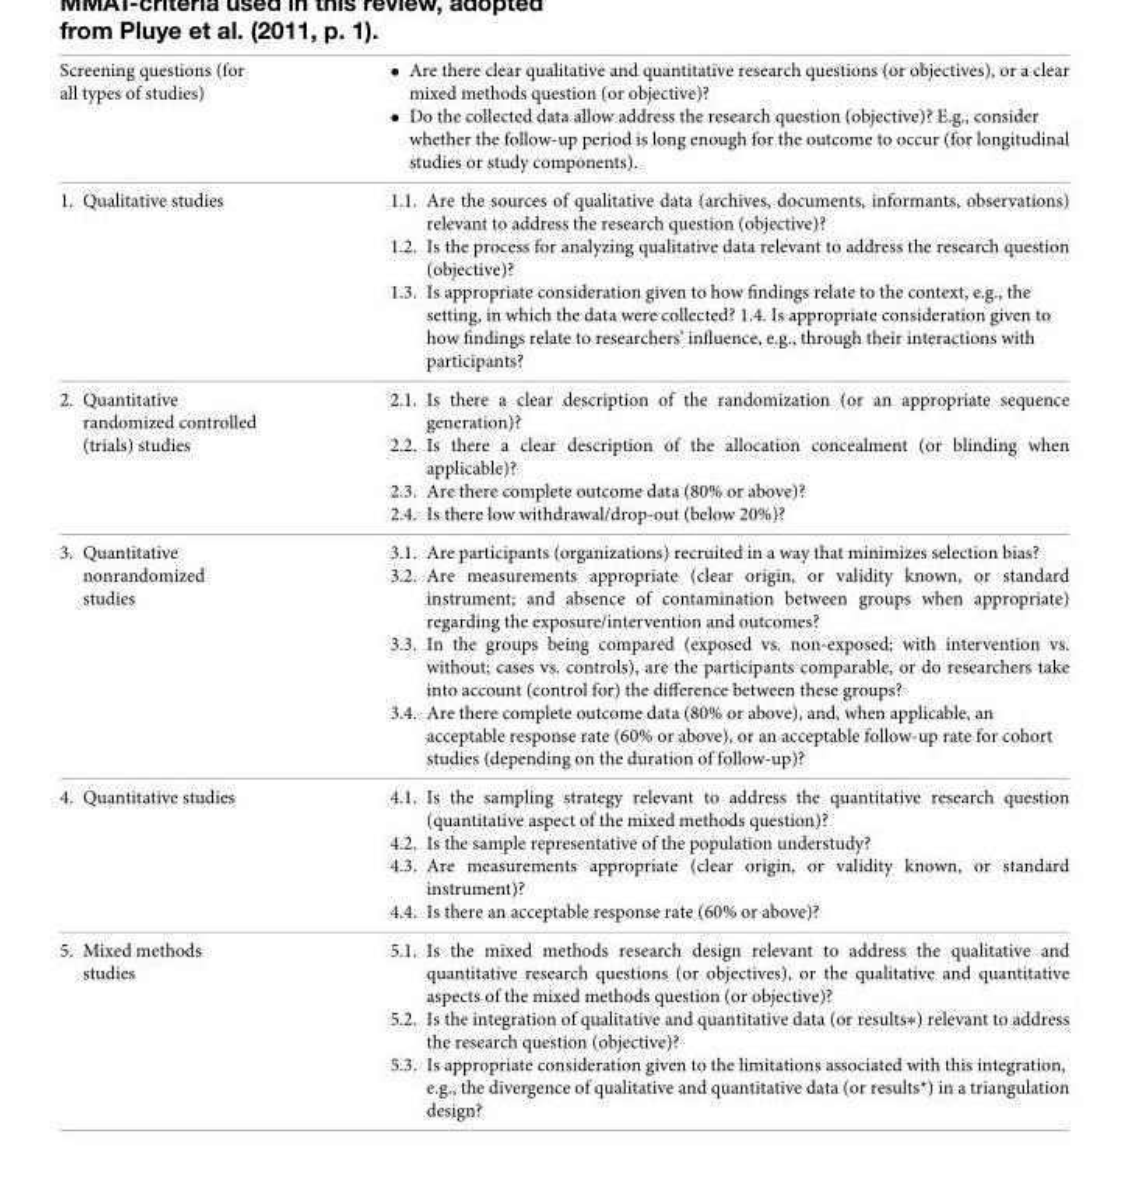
<table><tbody><tr><td>Screening questions (for all types of studies)</td><td>• Are there clear qualitative and quantitative research questions (or objectives), or a clear mixed methods question (or objective)? • Do the collected data allow address the research question (objective)? E.g., consider whether the follow-up period is long enough for the outcome to occur (for longitudinal studies or study components).</td></tr><tr><td>1. Qualitative studies</td><td>1.1. Are the sources of qualitative data (archives, documents, informants, observations) relevant to address the research question (objective)? 1.2. Is the process for analyzing qualitative data relevant to address the research question (objective)? 1.3. Is appropriate consideration given to how findings relate to the context, e.g., the setting, in which the data were collected? 1.4. Is appropriate consideration given to how findings relate to researchers’ influence, e.g., through their interactions with participants?</td></tr><tr><td>2. Quantitative randomized controlled (trials) studies</td><td>2.1. Is there a clear description of the randomization (or an appropriate sequence generation)? 2.2. Is there a clear description of the allocation concealment (or blinding when applicable)? 2.3. Are there complete outcome data (80% or above)? 2.4. Is there low withdrawal/drop-out (below 20%)?</td></tr><tr><td>3. Quantitative nonrandomized studies</td><td>3.1. Are participants (organizations) recruited in a way that minimizes selection bias? 3.2. Are measurements appropriate (clear origin, or validity known, or standard instrument; and absence of contamination between groups when appropriate) regarding the exposure/intervention and outcomes? 3.3. In the groups being compared (exposed vs. non-exposed; with intervention vs. without; cases vs. controls), are the participants comparable, or do researchers take into account (control for) the difference between these groups? 3.4. Are there complete outcome data (80% or above), and, when applicable, an acceptable response rate (60% or above), or an acceptable follow-up rate for cohort studies (depending on the duration of follow-up)?</td></tr><tr><td>4. Quantitative studies</td><td>4.1. Is the sampling strategy relevant to address the quantitative research question (quantitative aspect of the mixed methods question)? 4.2. Is the sample representative of the population understudy? 4.3. Are measurements appropriate (clear origin, or validity known, or standard instrument)? 4.4. Is there an acceptable response rate (60% or above)?</td></tr><tr><td>5. Mixed methods studies</td><td>5.1. Is the mixed methods research design relevant to address the qualitative and quantitative research questions (or objectives), or the qualitative and quantitative aspects of the mixed methods question (or objective)? 5.2. Is the integration of qualitative and quantitative data (or results∗) relevant to address the research question (objective)? 5.3. Is appropriate consideration given to the limitations associated with this integration, e.g., the divergence of qualitative and quantitative data (or results*) in a triangulation design?</td></tr></tbody></table>